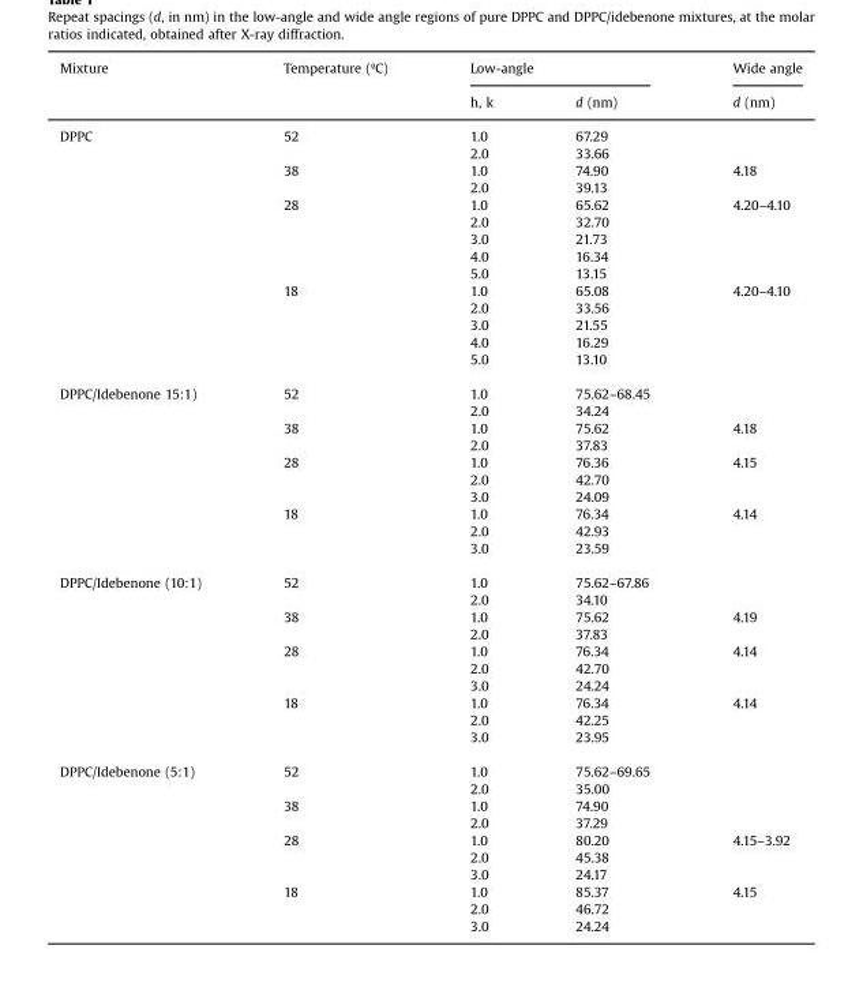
<table><thead><tr><td rowspan="2">Mixture</td><td rowspan="2">Temperature (ºC)</td><td colspan="2">Low-angle</td><td rowspan="2">Wide angle d (nm)</td></tr><tr><td>h, k</td><td>d (nm)</td></tr></thead><tbody><tr><td rowspan="14">DPPC</td><td>52</td><td>1.0</td><td>67.29</td><td></td></tr><tr><td></td><td>2.0</td><td>33.66</td><td></td></tr><tr><td>38</td><td>1.0</td><td>74.90</td><td>4.18</td></tr><tr><td></td><td>2.0</td><td>39.13</td><td></td></tr><tr><td>28</td><td>1.0</td><td>65.62</td><td>4.20–4.10</td></tr><tr><td></td><td>2.0</td><td>32.70</td><td></td></tr><tr><td></td><td>3.0</td><td>21.73</td><td></td></tr><tr><td></td><td>4.0</td><td>16.34</td><td></td></tr><tr><td></td><td>5.0</td><td>13.15</td><td></td></tr><tr><td>18</td><td>1.0</td><td>65.08</td><td>4.20–4.10</td></tr><tr><td></td><td>2.0</td><td>33.56</td><td></td></tr><tr><td></td><td>3.0</td><td>21.55</td><td></td></tr><tr><td></td><td>4.0</td><td>16.29</td><td></td></tr><tr><td></td><td>5.0</td><td>13.10</td><td></td></tr><tr><td rowspan="10">DPPC/Idebenone 15:1)</td><td>52</td><td>1.0</td><td>75.62–68.45</td><td></td></tr><tr><td></td><td>2.0</td><td>34.24</td><td></td></tr><tr><td>38</td><td>1.0</td><td>75.62</td><td>4.18</td></tr><tr><td></td><td>2.0</td><td>37.83</td><td></td></tr><tr><td>28</td><td>1.0</td><td>76.36</td><td>4.15</td></tr><tr><td></td><td>2.0</td><td>42.70</td><td></td></tr><tr><td></td><td>3.0</td><td>24.09</td><td></td></tr><tr><td>18</td><td>1.0</td><td>76.34</td><td>4.14</td></tr><tr><td></td><td>2.0</td><td>42.93</td><td></td></tr><tr><td></td><td>3.0</td><td>23.59</td><td></td></tr><tr><td rowspan="10">DPPC/Idebenone (10:1)</td><td>52</td><td>1.0</td><td>75.62–67.86</td><td></td></tr><tr><td></td><td>2.0</td><td>34.10</td><td></td></tr><tr><td>38</td><td>1.0</td><td>75.62</td><td>4.19</td></tr><tr><td></td><td>2.0</td><td>37.83</td><td></td></tr><tr><td>28</td><td>1.0</td><td>76.34</td><td>4.14</td></tr><tr><td></td><td>2.0</td><td>42.70</td><td></td></tr><tr><td></td><td>3.0</td><td>24.24</td><td></td></tr><tr><td>18</td><td>1.0</td><td>76.34</td><td>4.14</td></tr><tr><td></td><td>2.0</td><td>42.25</td><td></td></tr><tr><td></td><td>3.0</td><td>23.95</td><td></td></tr><tr><td rowspan="10">DPPC/Idebenone (5:1)</td><td>52</td><td>1.0</td><td>75.62–69.65</td><td></td></tr><tr><td></td><td>2.0</td><td>35.00</td><td></td></tr><tr><td>38</td><td>1.0</td><td>74.90</td><td></td></tr><tr><td></td><td>2.0</td><td>37.29</td><td></td></tr><tr><td>28</td><td>1.0</td><td>80.20</td><td>4.15–3.92</td></tr><tr><td></td><td>2.0</td><td>45.38</td><td></td></tr><tr><td></td><td>3.0</td><td>24.17</td><td></td></tr><tr><td>18</td><td>1.0</td><td>85.37</td><td>4.15</td></tr><tr><td></td><td>2.0</td><td>46.72</td><td></td></tr><tr><td></td><td>3.0</td><td>24.24</td><td></td></tr></tbody></table>